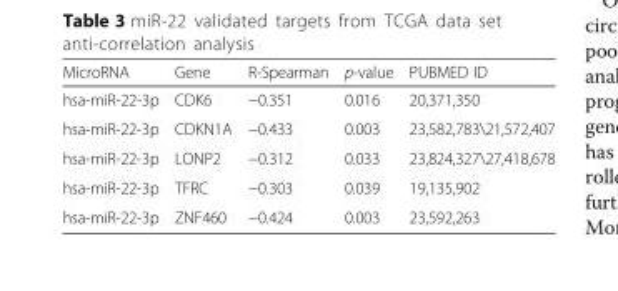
<table><thead><tr><td>MicroRNA</td><td>Gene</td><td>R-Spearman</td><td>p-value</td><td>PUBMED ID</td></tr></thead><tbody><tr><td>hsa-miR-22-3p</td><td>CDK6</td><td>−0.351</td><td>0.016</td><td>20,371,350</td></tr><tr><td>hsa-miR-22-3p</td><td>CDKN1A</td><td>−0.433</td><td>0.003</td><td>23,582,783\21,572,407</td></tr><tr><td>hsa-miR-22-3p</td><td>LONP2</td><td>−0.312</td><td>0.033</td><td>23,824,327\27,418,678</td></tr><tr><td>hsa-miR-22-3p</td><td>TFRC</td><td>−0.303</td><td>0.039</td><td>19,135,902</td></tr><tr><td>hsa-miR-22-3p</td><td>ZNF460</td><td>−0.424</td><td>0.003</td><td>23,592,263</td></tr></tbody></table>